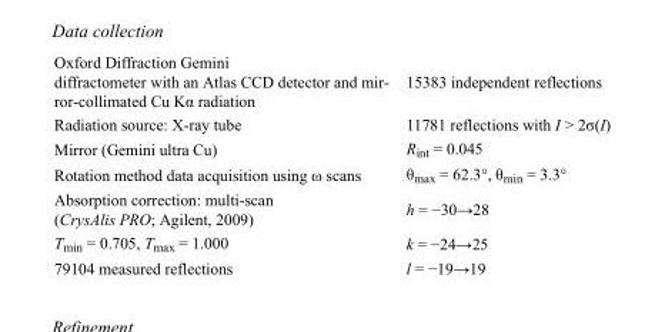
<table><tbody><tr><td>Oxford Diffraction Gemini diffractometer with an Atlas CCD detector and mir- ror-collimated Cu Kα radiation</td><td>15383 independent reflections</td></tr><tr><td>Radiation source: X-ray tube</td><td>11781 reflections with I &gt; 2σ(I)</td></tr><tr><td>Mirror (Gemini ultra Cu)</td><td>R<sub>int</sub> = 0.045</td></tr><tr><td>Rotation method data acquisition using ω scans</td><td>θ<sub>max</sub> = 62.3°, θ<sub>min</sub> = 3.3°</td></tr><tr><td>Absorption correction: multi-scan (CrysAlis PRO; Agilent, 2009)</td><td>h = −30→28</td></tr><tr><td>T<sub>min</sub> = 0.705, T<sub>max</sub> = 1.000</td><td>k = −24→25</td></tr><tr><td>79104 measured reflections</td><td>l = −19→19</td></tr></tbody></table>